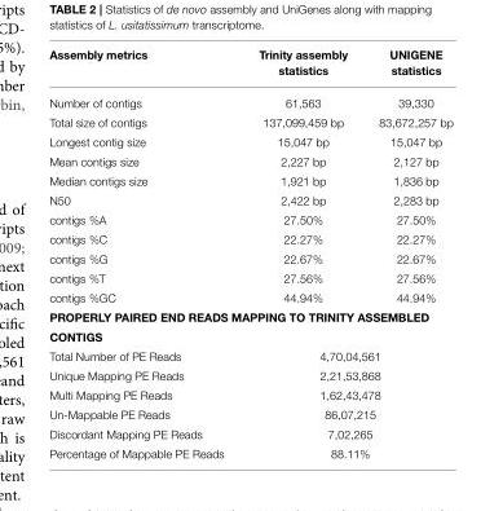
<table><thead><tr><td>Assembly metrics</td><td>Trinity assembly statistics</td><td>UNIGENE statistics</td></tr></thead><tbody><tr><td>Number of contigs</td><td>61,563</td><td>39,330</td></tr><tr><td>Total size of contigs</td><td>137,099,459 bp</td><td>83,672,257 bp</td></tr><tr><td>Longest contig size</td><td>15,047 bp</td><td>15,047 bp</td></tr><tr><td>Mean contigs size</td><td>2,227 bp</td><td>2,127 bp</td></tr><tr><td>Median contigs size</td><td>1,921 bp</td><td>1,836 bp</td></tr><tr><td>N50</td><td>2,422 bp</td><td>2,283 bp</td></tr><tr><td>contigs %A</td><td>27.50%</td><td>27.50%</td></tr><tr><td>contigs %C</td><td>22.27%</td><td>22.27%</td></tr><tr><td>contigs %G</td><td>22.67%</td><td>22.67%</td></tr><tr><td>contigs %T</td><td>27.56%</td><td>27.56%</td></tr><tr><td>contigs %GC</td><td>44.94%</td><td>44.94%</td></tr><tr><td colspan="3">PROPERLY PAIRED END READS MAPPING TO TRINITY ASSEMBLED CONTIGS</td></tr><tr><td>Total Number of PE Reads</td><td colspan="2">4,70,04,561</td></tr><tr><td>Unique Mapping PE Reads</td><td colspan="2">2,21,53,868</td></tr><tr><td>Multi Mapping PE Reads</td><td colspan="2">1,62,43,478</td></tr><tr><td>Un-Mappable PE Reads</td><td colspan="2">86,07,215</td></tr><tr><td>Discordant Mapping PE Reads</td><td colspan="2">7,02,265</td></tr><tr><td>Percentage of Mappable PE Reads</td><td colspan="2">88.11%</td></tr></tbody></table>